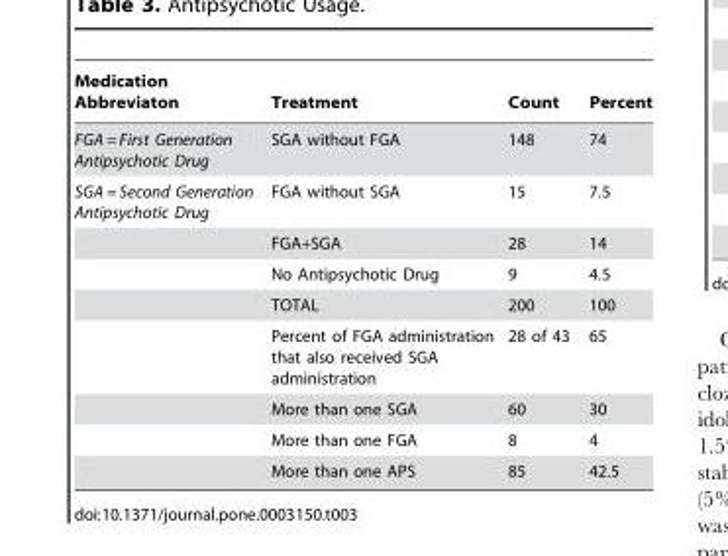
<table><thead><tr><td>Medication Abbreviaton</td><td>Treatment</td><td>Count</td><td>Percent</td></tr></thead><tbody><tr><td>FGA = First Generation Antipsychotic Drug</td><td>SGA without FGA</td><td>148</td><td>74</td></tr><tr><td rowspan="8">SGA = Second Generation Antipsychotic Drug</td><td>FGA without SGA</td><td>15</td><td>7.5</td></tr><tr><td>FGA+SGA</td><td>28</td><td>14</td></tr><tr><td>No Antipsychotic Drug</td><td>9</td><td>4.5</td></tr><tr><td>TOTAL</td><td>200</td><td>100</td></tr><tr><td>Percent of FGA administration that also received SGA administration</td><td>28 of 43</td><td>65</td></tr><tr><td>More than one SGA</td><td>60</td><td>30</td></tr><tr><td>More than one FGA</td><td>8</td><td>4</td></tr><tr><td>More than one APS</td><td>85</td><td>42.5</td></tr></tbody></table>